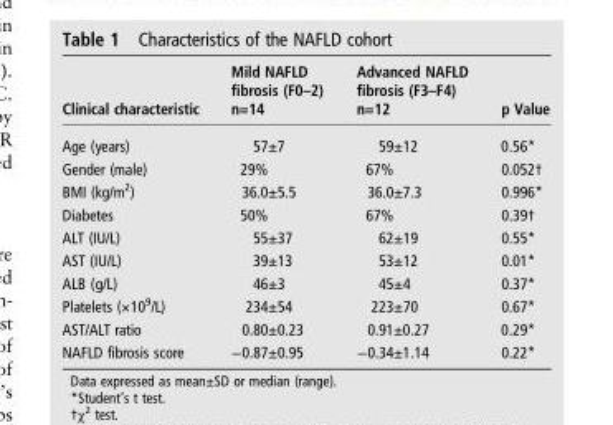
<table><thead><tr><td>Clinical characteristic</td><td>Mild NAFLD fibrosis (F0–2) n=14</td><td>Advanced NAFLD fibrosis (F3–F4) n=12</td><td>p Value</td></tr></thead><tbody><tr><td>Age (years)</td><td>57±7</td><td>59±12</td><td>0.56*</td></tr><tr><td>Gender (male)</td><td>29%</td><td>67%</td><td>0.052†</td></tr><tr><td>BMI (kg/m<sup>2</sup>)</td><td>36.0±5.5</td><td>36.0±7.3</td><td>0.996*</td></tr><tr><td>Diabetes</td><td>50%</td><td>67%</td><td>0.39†</td></tr><tr><td>ALT (IU/L)</td><td>55±37</td><td>62±19</td><td>0.55*</td></tr><tr><td>AST (IU/L)</td><td>39±13</td><td>53±12</td><td>0.01*</td></tr><tr><td>ALB (g/L)</td><td>46±3</td><td>45±4</td><td>0.37*</td></tr><tr><td>Platelets (×10<sup>9</sup>/L)</td><td>234±54</td><td>223±70</td><td>0.67*</td></tr><tr><td>AST/ALT ratio</td><td>0.80±0.23</td><td>0.91±0.27</td><td>0.29*</td></tr><tr><td>NAFLD fibrosis score</td><td>−0.87±0.95</td><td>−0.34±1.14</td><td>0.22*</td></tr></tbody></table>